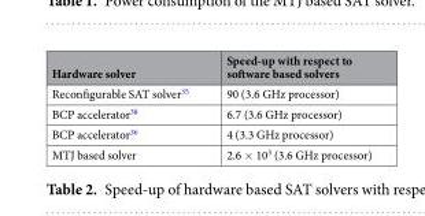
<table><thead><tr><td>Hardware solver</td><td>Speed-up with respect to software based solvers</td></tr></thead><tbody><tr><td>Reconfigurable SAT solver<sup>35</sup></td><td>90 (3.6 GHz processor)</td></tr><tr><td>BCP accelerator<sup>38</sup></td><td>6.7 (3.6 GHz processor)</td></tr><tr><td>BCP accelerator<sup>36</sup></td><td>4 (3.3 GHz processor)</td></tr><tr><td>MTJ based solver</td><td>2.6 × 10<sup>3</sup> (3.6 GHz processor)</td></tr></tbody></table>